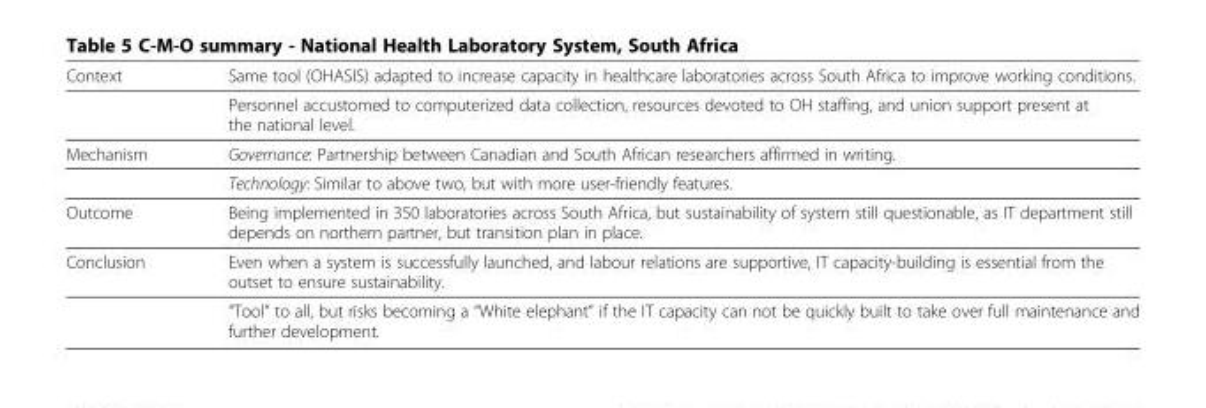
<table><thead><tr><td>Context</td><td>Same tool (OHASIS) adapted to increase capacity in healthcare laboratories across South Africa to improve working conditions.</td></tr></thead><tbody><tr><td></td><td>Personnel accustomed to computerized data collection, resources devoted to OH staffing, and union support present at the national level.</td></tr><tr><td rowspan="2">Mechanism</td><td>Governance: Partnership between Canadian and South African researchers affirmed in writing.</td></tr><tr><td>Technology: Similar to above two, but with more user-friendly features.</td></tr><tr><td>Outcome</td><td>Being implemented in 350 laboratories across South Africa, but sustainability of system still questionable, as IT department still depends on northern partner, but transition plan in place.</td></tr><tr><td rowspan="2">Conclusion</td><td>Even when a system is successfully launched, and labour relations are supportive, IT capacity-building is essential from the outset to ensure sustainability.</td></tr><tr><td>“Tool” to all, but risks becoming a “White elephant” if the IT capacity can not be quickly built to take over full maintenance and further development.</td></tr></tbody></table>